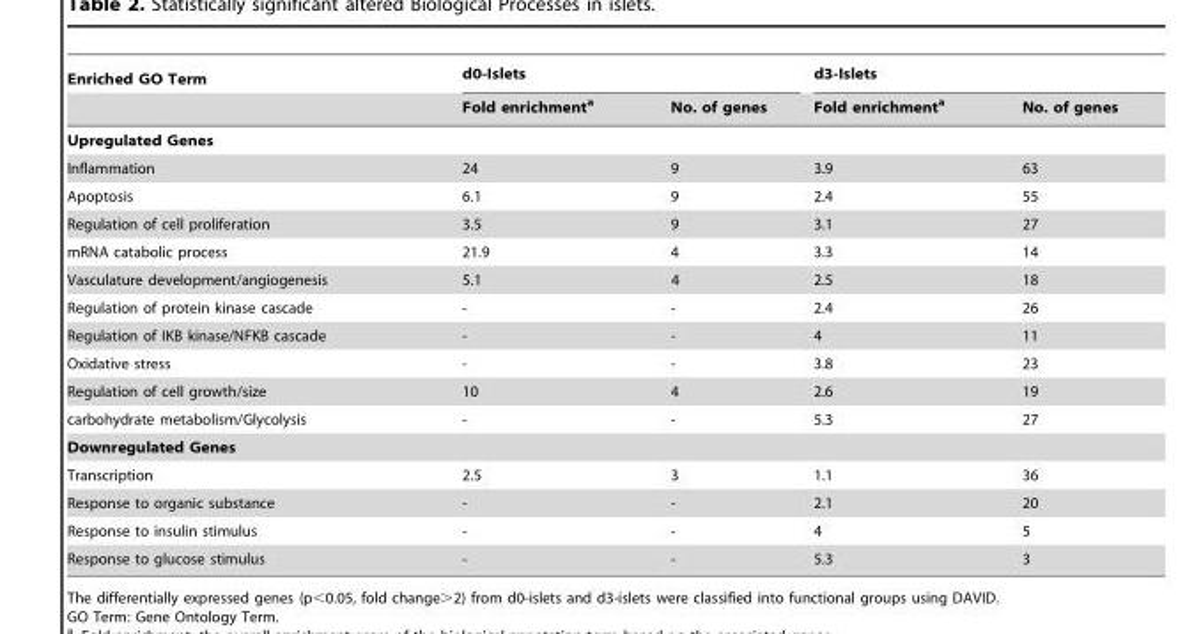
<table><thead><tr><td rowspan="2">Enriched GO Term</td><td colspan="2">d0-Islets</td><td colspan="2">d3-Islets</td></tr><tr><td>Fold enrichment<sup>a</sup></td><td>No. of genes</td><td>Fold enrichment<sup>a</sup></td><td>No. of genes</td></tr></thead><tbody><tr><td colspan="5">Upregulated Genes</td></tr><tr><td>Inflammation</td><td>24</td><td>9</td><td>3.9</td><td>63</td></tr><tr><td>Apoptosis</td><td>6.1</td><td>9</td><td>2.4</td><td>55</td></tr><tr><td>Regulation of cell proliferation</td><td>3.5</td><td>9</td><td>3.1</td><td>27</td></tr><tr><td>mRNA catabolic process</td><td>21.9</td><td>4</td><td>3.3</td><td>14</td></tr><tr><td>Vasculature development/angiogenesis</td><td>5.1</td><td>4</td><td>2.5</td><td>18</td></tr><tr><td>Regulation of protein kinase cascade</td><td>-</td><td>-</td><td>2.4</td><td>26</td></tr><tr><td>Regulation of IKB kinase/NFKB cascade</td><td>-</td><td>-</td><td>4</td><td>11</td></tr><tr><td>Oxidative stress</td><td>-</td><td>-</td><td>3.8</td><td>23</td></tr><tr><td>Regulation of cell growth/size</td><td>10</td><td>4</td><td>2.6</td><td>19</td></tr><tr><td>carbohydrate metabolism/Glycolysis</td><td>-</td><td>-</td><td>5.3</td><td>27</td></tr><tr><td colspan="5">Downregulated Genes</td></tr><tr><td>Transcription</td><td>2.5</td><td>3</td><td>1.1</td><td>36</td></tr><tr><td>Response to organic substance</td><td>-</td><td>-</td><td>2.1</td><td>20</td></tr><tr><td>Response to insulin stimulus</td><td>-</td><td>-</td><td>4</td><td>5</td></tr><tr><td>Response to glucose stimulus</td><td>-</td><td>-</td><td>5.3</td><td>3</td></tr></tbody></table>